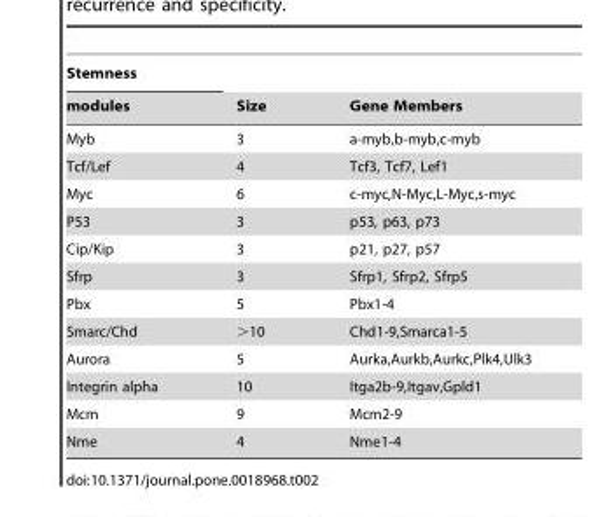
<table><thead><tr><td rowspan="2">Stemness modules</td><td rowspan="2">Size</td><td rowspan="2">Gene Members</td></tr><tr></tr></thead><tbody><tr><td>Myb</td><td>3</td><td>a-myb,b-myb,c-myb</td></tr><tr><td>Tcf/Lef</td><td>4</td><td>Tcf3, Tcf7, Lef1</td></tr><tr><td>Myc</td><td>6</td><td>c-myc,N-Myc,L-Myc,s-myc</td></tr><tr><td>P53</td><td>3</td><td>p53, p63, p73</td></tr><tr><td>Cip/Kip</td><td>3</td><td>p21, p27, p57</td></tr><tr><td>Sfrp</td><td>3</td><td>Sfrp1, Sfrp2, Sfrp5</td></tr><tr><td>Pbx</td><td>5</td><td>Pbx1-4</td></tr><tr><td>Smarc/Chd</td><td>&gt;10</td><td>Chd1-9,Smarca1-5</td></tr><tr><td>Aurora</td><td>5</td><td>Aurka,Aurkb,Aurkc,Plk4,Ulk3</td></tr><tr><td>Integrin alpha</td><td>10</td><td>Itga2b-9,Itgav,Gpld1</td></tr><tr><td>Mcm</td><td>9</td><td>Mcm2-9</td></tr><tr><td>Nme</td><td>4</td><td>Nme1-4</td></tr></tbody></table>